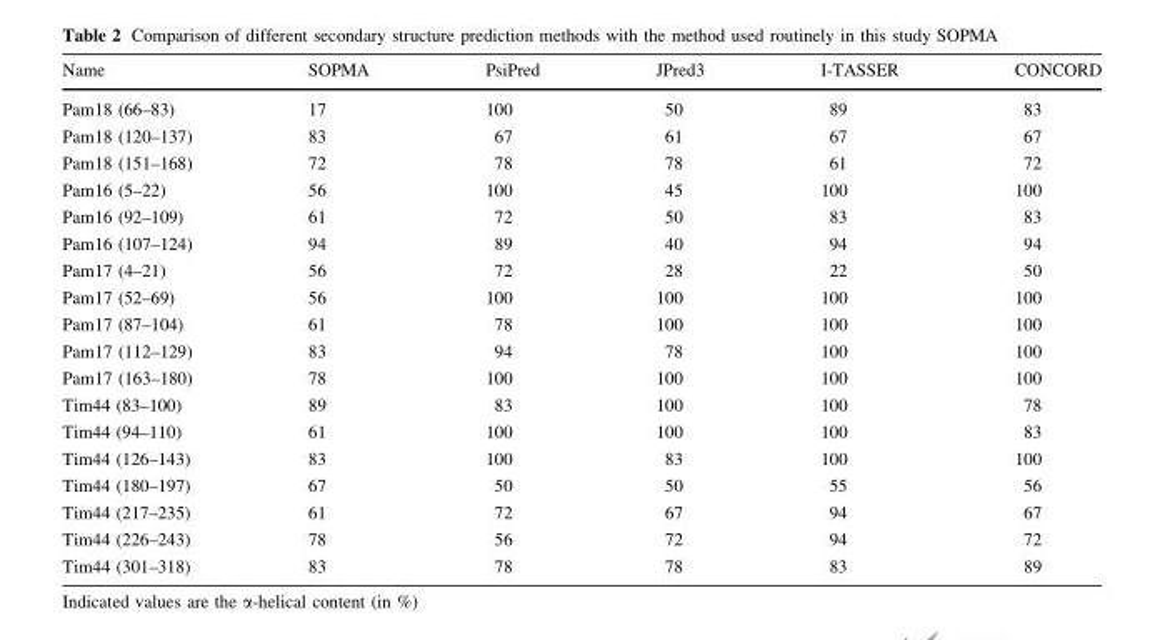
<table><thead><tr><td>Name</td><td>SOPMA</td><td>PsiPred</td><td>JPred3</td><td>I-TASSER</td><td>CONCORD</td></tr></thead><tbody><tr><td>Pam18 (66–83)</td><td>17</td><td>100</td><td>50</td><td>89</td><td>83</td></tr><tr><td>Pam18 (120–137)</td><td>83</td><td>67</td><td>61</td><td>67</td><td>67</td></tr><tr><td>Pam18 (151–168)</td><td>72</td><td>78</td><td>78</td><td>61</td><td>72</td></tr><tr><td>Pam16 (5–22)</td><td>56</td><td>100</td><td>45</td><td>100</td><td>100</td></tr><tr><td>Pam16 (92–109)</td><td>61</td><td>72</td><td>50</td><td>83</td><td>83</td></tr><tr><td>Pam16 (107–124)</td><td>94</td><td>89</td><td>40</td><td>94</td><td>94</td></tr><tr><td>Pam17 (4–21)</td><td>56</td><td>72</td><td>28</td><td>22</td><td>50</td></tr><tr><td>Pam17 (52–69)</td><td>56</td><td>100</td><td>100</td><td>100</td><td>100</td></tr><tr><td>Pam17 (87–104)</td><td>61</td><td>78</td><td>100</td><td>100</td><td>100</td></tr><tr><td>Pam17 (112–129)</td><td>83</td><td>94</td><td>78</td><td>100</td><td>100</td></tr><tr><td>Pam17 (163–180)</td><td>78</td><td>100</td><td>100</td><td>100</td><td>100</td></tr><tr><td>Tim44 (83–100)</td><td>89</td><td>83</td><td>100</td><td>100</td><td>78</td></tr><tr><td>Tim44 (94–110)</td><td>61</td><td>100</td><td>100</td><td>100</td><td>83</td></tr><tr><td>Tim44 (126–143)</td><td>83</td><td>100</td><td>83</td><td>100</td><td>100</td></tr><tr><td>Tim44 (180–197)</td><td>67</td><td>50</td><td>50</td><td>55</td><td>56</td></tr><tr><td>Tim44 (217–235)</td><td>61</td><td>72</td><td>67</td><td>94</td><td>67</td></tr><tr><td>Tim44 (226–243)</td><td>78</td><td>56</td><td>72</td><td>94</td><td>72</td></tr><tr><td>Tim44 (301–318)</td><td>83</td><td>78</td><td>78</td><td>83</td><td>89</td></tr></tbody></table>